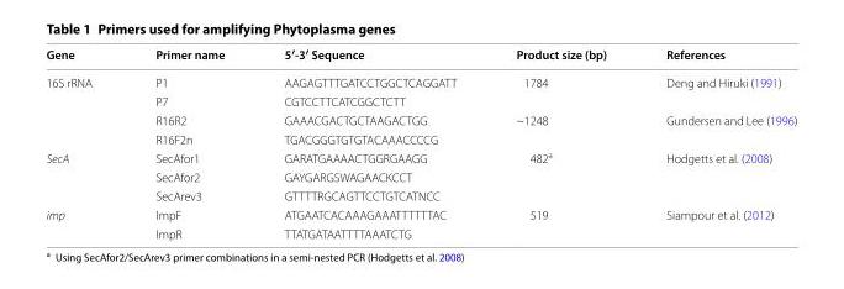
<table><thead><tr><td>Gene</td><td>Primer name</td><td>5′-3′ Sequence</td><td>Product size (bp)</td><td>References</td></tr></thead><tbody><tr><td rowspan="4">16S rRNA</td><td>P1</td><td>AAGAGTTTGATCCTGGCTCAGGATT</td><td>1784</td><td>Deng and Hiruki (1991)</td></tr><tr><td>P7</td><td>CGTCCTTCATCGGCTCTT</td><td></td><td></td></tr><tr><td>R16R2</td><td>GAAACGACTGCTAAGACTGG</td><td>~1248</td><td>Gundersen and Lee (1996)</td></tr><tr><td>R16F2n</td><td>TGACGGGTGTGTACAAACCCCG</td><td></td><td></td></tr><tr><td rowspan="3">SecA</td><td>SecAfor1</td><td>GARATGAAAACTGGRGAAGG</td><td>482<sup>a</sup></td><td>Hodgetts et al. (2008)</td></tr><tr><td>SecAfor2</td><td>GAYGARGSWAGAACKCCT</td><td></td><td></td></tr><tr><td>SecArev3</td><td>GTTTTRGCAGTTCCTGTCATNCC</td><td></td><td></td></tr><tr><td rowspan="2">imp</td><td>ImpF</td><td>ATGAATCACAAAGAAATTTTTTAC</td><td>519</td><td>Siampour et al. (2012)</td></tr><tr><td>ImpR</td><td>TTATGATAATTTTAAATCTG</td><td></td><td></td></tr></tbody></table>